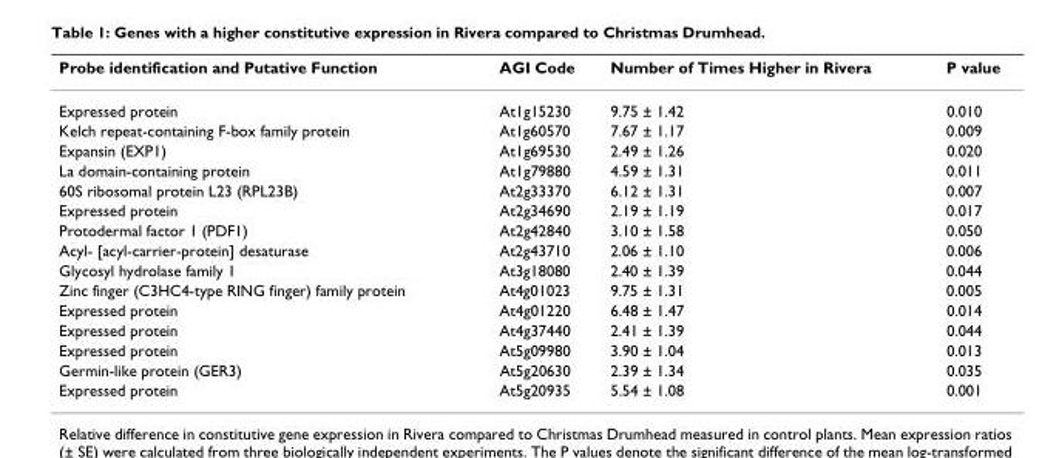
<table><thead><tr><td>Probe identification and Putative Function</td><td>AGI Code</td><td>Number of Times Higher in Rivera</td><td>P value</td></tr></thead><tbody><tr><td>Expressed protein</td><td>At1g15230</td><td>9.75 ± 1.42</td><td>0.010</td></tr><tr><td>Kelch repeat-containing F-box family protein</td><td>At1g60570</td><td>7.67 ± 1.17</td><td>0.009</td></tr><tr><td>Expansin (EXP1)</td><td>At1g69530</td><td>2.49 ± 1.26</td><td>0.020</td></tr><tr><td>La domain-containing protein</td><td>At1g79880</td><td>4.59 ± 1.31</td><td>0.011</td></tr><tr><td>60S ribosomal protein L23 (RPL23B)</td><td>At2g33370</td><td>6.12 ± 1.31</td><td>0.007</td></tr><tr><td>Expressed protein</td><td>At2g34690</td><td>2.19 ± 1.19</td><td>0.017</td></tr><tr><td>Protodermal factor 1 (PDF1)</td><td>At2g42840</td><td>3.10 ± 1.58</td><td>0.050</td></tr><tr><td>Acyl- [acyl-carrier-protein] desaturase</td><td>At2g43710</td><td>2.06 ± 1.10</td><td>0.006</td></tr><tr><td>Glycosyl hydrolase family 1</td><td>At3g18080</td><td>2.40 ± 1.39</td><td>0.044</td></tr><tr><td>Zinc finger (C3HC4-type RING finger) family protein</td><td>At4g01023</td><td>9.75 ± 1.31</td><td>0.005</td></tr><tr><td>Expressed protein</td><td>At4g01220</td><td>6.48 ± 1.47</td><td>0.014</td></tr><tr><td>Expressed protein</td><td>At4g37440</td><td>2.41 ± 1.39</td><td>0.044</td></tr><tr><td>Expressed protein</td><td>At5g09980</td><td>3.90 ± 1.04</td><td>0.013</td></tr><tr><td>Germin-like protein (GER3)</td><td>At5g20630</td><td>2.39 ± 1.34</td><td>0.035</td></tr><tr><td>Expressed protein</td><td>At5g20935</td><td>5.54 ± 1.08</td><td>0.001</td></tr></tbody></table>